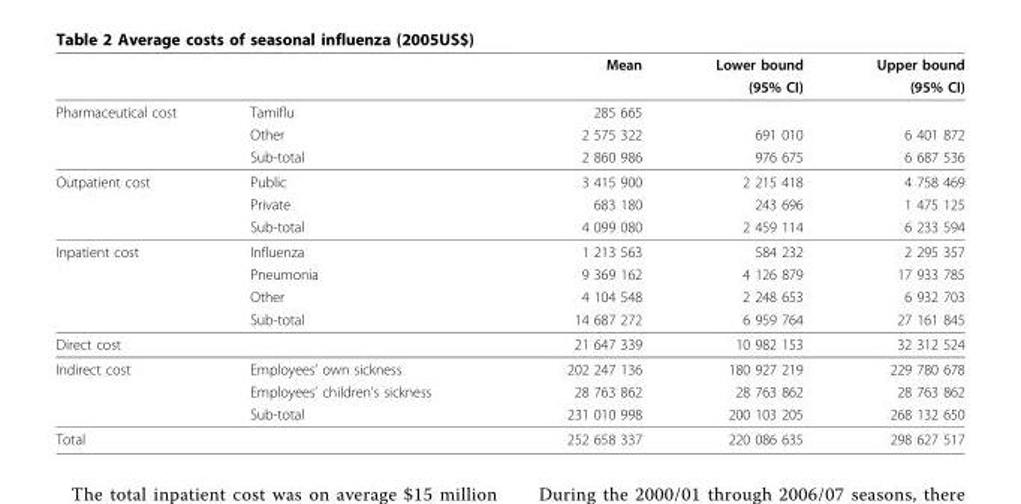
<table><thead><tr><td rowspan="2"></td><td rowspan="2"></td><td rowspan="2">Mean</td><td rowspan="2">Lower bound (95% CI)</td><td rowspan="2">Upper bound (95% CI)</td></tr><tr></tr></thead><tbody><tr><td rowspan="3">Pharmaceutical cost</td><td>Tamiflu</td><td>285 665</td><td></td><td></td></tr><tr><td>Other</td><td>2 575 322</td><td>691 010</td><td>6 401 872</td></tr><tr><td>Sub-total</td><td>2 860 986</td><td>976 675</td><td>6 687 536</td></tr><tr><td rowspan="3">Outpatient cost</td><td>Public</td><td>3 415 900</td><td>2 215 418</td><td>4 758 469</td></tr><tr><td>Private</td><td>683 180</td><td>243 696</td><td>1 475 125</td></tr><tr><td>Sub-total</td><td>4 099 080</td><td>2 459 114</td><td>6 233 594</td></tr><tr><td rowspan="4">Inpatient cost</td><td>Influenza</td><td>1 213 563</td><td>584 232</td><td>2 295 357</td></tr><tr><td>Pneumonia</td><td>9 369 162</td><td>4 126 879</td><td>17 933 785</td></tr><tr><td>Other</td><td>4 104 548</td><td>2 248 653</td><td>6 932 703</td></tr><tr><td>Sub-total</td><td>14 687 272</td><td>6 959 764</td><td>27 161 845</td></tr><tr><td>Direct cost</td><td></td><td>21 647 339</td><td>10 982 153</td><td>32 312 524</td></tr><tr><td rowspan="3">Indirect cost</td><td>Employees’ own sickness</td><td>202 247 136</td><td>180 927 219</td><td>229 780 678</td></tr><tr><td>Employees’ children’s sickness</td><td>28 763 862</td><td>28 763 862</td><td>28 763 862</td></tr><tr><td>Sub-total</td><td>231 010 998</td><td>200 103 205</td><td>268 132 650</td></tr><tr><td>Total</td><td></td><td>252 658 337</td><td>220 086 635</td><td>298 627 517</td></tr></tbody></table>